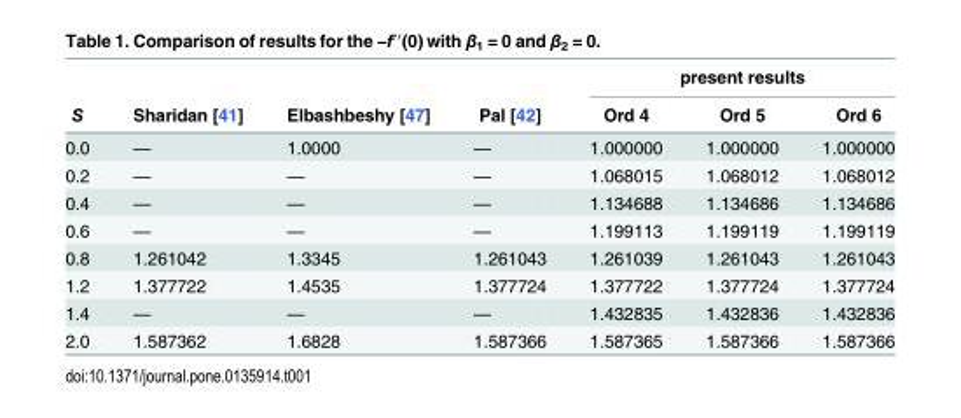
<table><thead><tr><td rowspan="2">S</td><td rowspan="2">Sharidan [41]</td><td rowspan="2">Elbashbeshy [47]</td><td rowspan="2">Pal [42]</td><td colspan="3">present results</td></tr><tr><td>Ord 4</td><td>Ord 5</td><td>Ord 6</td></tr></thead><tbody><tr><td>0.0</td><td>—</td><td>1.0000</td><td>—</td><td>1.000000</td><td>1.000000</td><td>1.000000</td></tr><tr><td>0.2</td><td>—</td><td>—</td><td>—</td><td>1.068015</td><td>1.068012</td><td>1.068012</td></tr><tr><td>0.4</td><td>—</td><td>—</td><td>—</td><td>1.134688</td><td>1.134686</td><td>1.134686</td></tr><tr><td>0.6</td><td>—</td><td>—</td><td>—</td><td>1.199113</td><td>1.199119</td><td>1.199119</td></tr><tr><td>0.8</td><td>1.261042</td><td>1.3345</td><td>1.261043</td><td>1.261039</td><td>1.261043</td><td>1.261043</td></tr><tr><td>1.2</td><td>1.377722</td><td>1.4535</td><td>1.377724</td><td>1.377722</td><td>1.377724</td><td>1.377724</td></tr><tr><td>1.4</td><td>—</td><td>—</td><td>—</td><td>1.432835</td><td>1.432836</td><td>1.432836</td></tr><tr><td>2.0</td><td>1.587362</td><td>1.6828</td><td>1.587366</td><td>1.587365</td><td>1.587366</td><td>1.587366</td></tr></tbody></table>